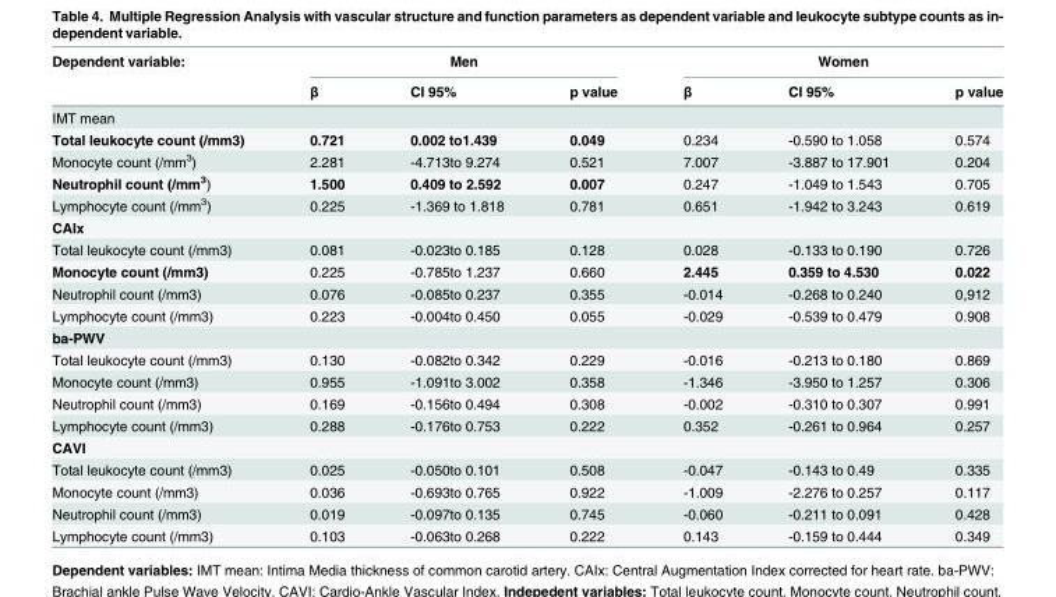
<table><thead><tr><td rowspan="2">Dependent variable:</td><td colspan="3">Men</td><td colspan="3">Women</td></tr><tr><td>β</td><td>CI 95%</td><td>p value</td><td>β</td><td>CI 95%</td><td>p value</td></tr></thead><tbody><tr><td colspan="7">IMT mean</td></tr><tr><td>Total leukocyte count (/mm3)</td><td>0.721</td><td>0.002 to1.439</td><td>0.049</td><td>0.234</td><td>-0.590 to 1.058</td><td>0.574</td></tr><tr><td>Monocyte count (/mm<sup>3</sup>)</td><td>2.281</td><td>-4.713to 9.274</td><td>0.521</td><td>7.007</td><td>-3.887 to 17.901</td><td>0.204</td></tr><tr><td>Neutrophil count (/mm<sup>3</sup>)</td><td>1.500</td><td>0.409 to 2.592</td><td>0.007</td><td>0.247</td><td>-1.049 to 1.543</td><td>0.705</td></tr><tr><td>Lymphocyte count (/mm<sup>3</sup>)</td><td>0.225</td><td>-1.369 to 1.818</td><td>0.781</td><td>0.651</td><td>-1.942 to 3.243</td><td>0.619</td></tr><tr><td colspan="7">CAIx</td></tr><tr><td>Total leukocyte count (/mm3)</td><td>0.081</td><td>-0.023to 0.185</td><td>0.128</td><td>0.028</td><td>-0.133 to 0.190</td><td>0.726</td></tr><tr><td>Monocyte count (/mm3)</td><td>0.225</td><td>-0.785to 1.237</td><td>0.660</td><td>2.445</td><td>0.359 to 4.530</td><td>0.022</td></tr><tr><td>Neutrophil count (/mm3)</td><td>0.076</td><td>-0.085to 0.237</td><td>0.355</td><td>-0.014</td><td>-0.268 to 0.240</td><td>0,912</td></tr><tr><td>Lymphocyte count (/mm3)</td><td>0.223</td><td>-0.004to 0.450</td><td>0.055</td><td>-0.029</td><td>-0.539 to 0.479</td><td>0.908</td></tr><tr><td colspan="7">ba-PWV</td></tr><tr><td>Total leukocyte count (/mm3)</td><td>0.130</td><td>-0.082to 0.342</td><td>0.229</td><td>-0.016</td><td>-0.213 to 0.180</td><td>0.869</td></tr><tr><td>Monocyte count (/mm3)</td><td>0.955</td><td>-1.091to 3.002</td><td>0.358</td><td>-1.346</td><td>-3.950 to 1.257</td><td>0.306</td></tr><tr><td>Neutrophil count (/mm3)</td><td>0.169</td><td>-0.156to 0.494</td><td>0.308</td><td>-0.002</td><td>-0.310 to 0.307</td><td>0.991</td></tr><tr><td>Lymphocyte count (/mm3)</td><td>0.288</td><td>-0.176to 0.753</td><td>0.222</td><td>0.352</td><td>-0.261 to 0.964</td><td>0.257</td></tr><tr><td colspan="7">CAVI</td></tr><tr><td>Total leukocyte count (/mm3)</td><td>0.025</td><td>-0.050to 0.101</td><td>0.508</td><td>-0.047</td><td>-0.143 to 0.49</td><td>0.335</td></tr><tr><td>Monocyte count (/mm3)</td><td>0.036</td><td>-0.693to 0.765</td><td>0.922</td><td>-1.009</td><td>-2.276 to 0.257</td><td>0.117</td></tr><tr><td>Neutrophil count (/mm3)</td><td>0.019</td><td>-0.097to 0.135</td><td>0.745</td><td>-0.060</td><td>-0.211 to 0.091</td><td>0.428</td></tr><tr><td>Lymphocyte count (/mm3)</td><td>0.103</td><td>-0.063to 0.268</td><td>0.222</td><td>0.143</td><td>-0.159 to 0.444</td><td>0.349</td></tr></tbody></table>